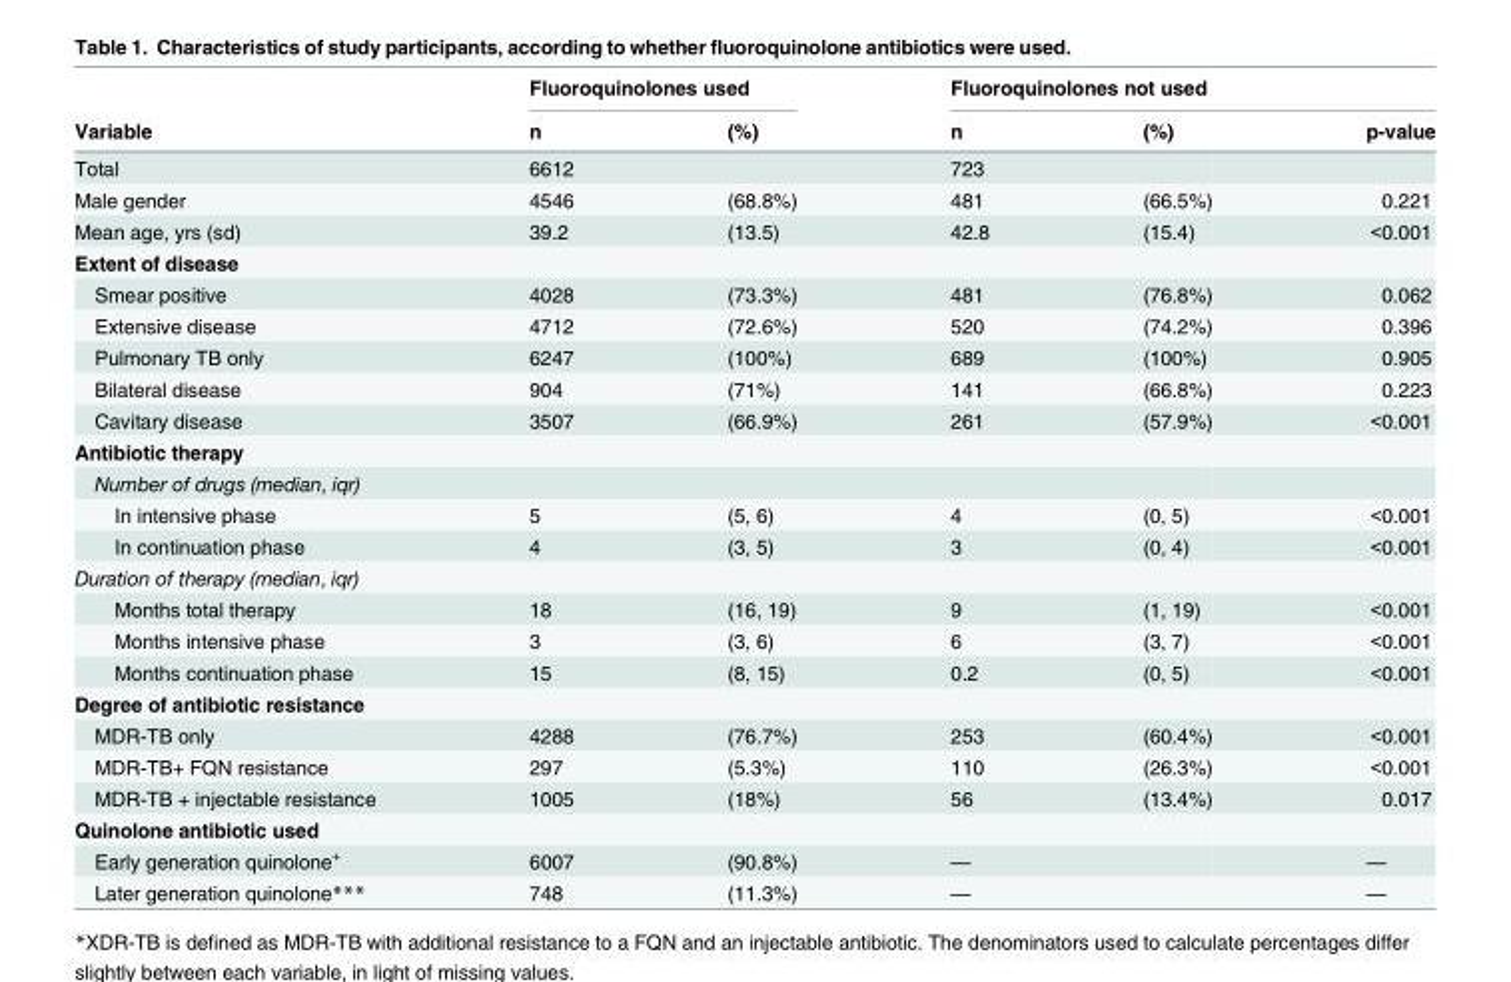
<table><thead><tr><td rowspan="2">Variable</td><td colspan="2">Fluoroquinolones used</td><td colspan="3">Fluoroquinolones not used</td></tr><tr><td>n</td><td>(%)</td><td>n</td><td>(%)</td><td>p-value</td></tr></thead><tbody><tr><td>Total</td><td>6612</td><td></td><td>723</td><td></td><td></td></tr><tr><td>Male gender</td><td>4546</td><td>(68.8%)</td><td>481</td><td>(66.5%)</td><td>0.221</td></tr><tr><td>Mean age, yrs (sd)</td><td>39.2</td><td>(13.5)</td><td>42.8</td><td>(15.4)</td><td>&lt;0.001</td></tr><tr><td colspan="6">Extent of disease</td></tr><tr><td>Smear positive</td><td>4028</td><td>(73.3%)</td><td>481</td><td>(76.8%)</td><td>0.062</td></tr><tr><td>Extensive disease</td><td>4712</td><td>(72.6%)</td><td>520</td><td>(74.2%)</td><td>0.396</td></tr><tr><td>Pulmonary TB only</td><td>6247</td><td>(100%)</td><td>689</td><td>(100%)</td><td>0.905</td></tr><tr><td>Bilateral disease</td><td>904</td><td>(71%)</td><td>141</td><td>(66.8%)</td><td>0.223</td></tr><tr><td>Cavitary disease</td><td>3507</td><td>(66.9%)</td><td>261</td><td>(57.9%)</td><td>&lt;0.001</td></tr><tr><td colspan="6">Antibiotic therapy</td></tr><tr><td colspan="6">Number of drugs (median, iqr)</td></tr><tr><td>In intensive phase</td><td>5</td><td>(5, 6)</td><td>4</td><td>(0, 5)</td><td>&lt;0.001</td></tr><tr><td>In continuation phase</td><td>4</td><td>(3, 5)</td><td>3</td><td>(0, 4)</td><td>&lt;0.001</td></tr><tr><td colspan="6">Duration of therapy (median, iqr)</td></tr><tr><td>Months total therapy</td><td>18</td><td>(16, 19)</td><td>9</td><td>(1, 19)</td><td>&lt;0.001</td></tr><tr><td>Months intensive phase</td><td>3</td><td>(3, 6)</td><td>6</td><td>(3, 7)</td><td>&lt;0.001</td></tr><tr><td>Months continuation phase</td><td>15</td><td>(8, 15)</td><td>0.2</td><td>(0, 5)</td><td>&lt;0.001</td></tr><tr><td colspan="6">Degree of antibiotic resistance</td></tr><tr><td>MDR-TB only</td><td>4288</td><td>(76.7%)</td><td>253</td><td>(60.4%)</td><td>&lt;0.001</td></tr><tr><td>MDR-TB+ FQN resistance</td><td>297</td><td>(5.3%)</td><td>110</td><td>(26.3%)</td><td>&lt;0.001</td></tr><tr><td>MDR-TB + injectable resistance</td><td>1005</td><td>(18%)</td><td>56</td><td>(13.4%)</td><td>0.017</td></tr><tr><td colspan="6">Quinolone antibiotic used</td></tr><tr><td>Early generation quinolone<sup>+</sup></td><td>6007</td><td>(90.8%)</td><td>—</td><td></td><td>—</td></tr><tr><td>Later generation quinolone***</td><td>748</td><td>(11.3%)</td><td>—</td><td></td><td>—</td></tr></tbody></table>